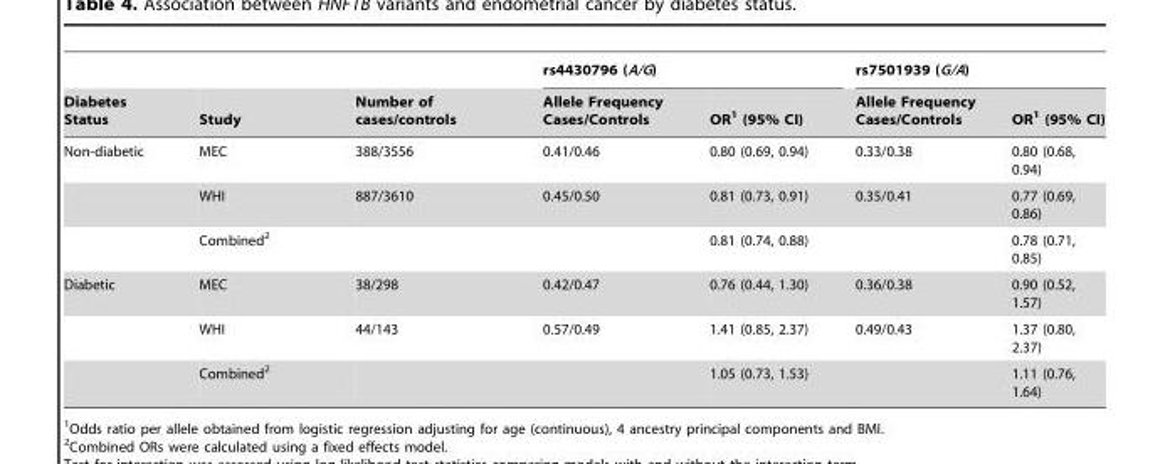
<table><thead><tr><td rowspan="2">Diabetes Status</td><td rowspan="2">Study</td><td rowspan="2">Number of cases/controls</td><td colspan="2">rs4430796 (A/G)</td><td colspan="2">rs7501939 (G/A)</td></tr><tr><td>Allele Frequency Cases/Controls</td><td>OR<sup>1</sup> (95% CI)</td><td>Allele Frequency Cases/Controls</td><td>OR<sup>1</sup> (95% CI)</td></tr></thead><tbody><tr><td rowspan="3">Non-diabetic</td><td>MEC</td><td>388/3556</td><td>0.41/0.46</td><td>0.80 (0.69, 0.94)</td><td>0.33/0.38</td><td>0.80 (0.68, 0.94)</td></tr><tr><td>WHI</td><td>887/3610</td><td>0.45/0.50</td><td>0.81 (0.73, 0.91)</td><td>0.35/0.41</td><td>0.77 (0.69, 0.86)</td></tr><tr><td>Combined<sup>2</sup></td><td></td><td></td><td>0.81 (0.74, 0.88)</td><td></td><td>0.78 (0.71, 0.85)</td></tr><tr><td rowspan="3">Diabetic</td><td>MEC</td><td>38/298</td><td>0.42/0.47</td><td>0.76 (0.44, 1.30)</td><td>0.36/0.38</td><td>0.90 (0.52, 1.57)</td></tr><tr><td>WHI</td><td>44/143</td><td>0.57/0.49</td><td>1.41 (0.85, 2.37)</td><td>0.49/0.43</td><td>1.37 (0.80, 2.37)</td></tr><tr><td>Combined<sup>2</sup></td><td></td><td></td><td>1.05 (0.73, 1.53)</td><td></td><td>1.11 (0.76, 1.64)</td></tr></tbody></table>